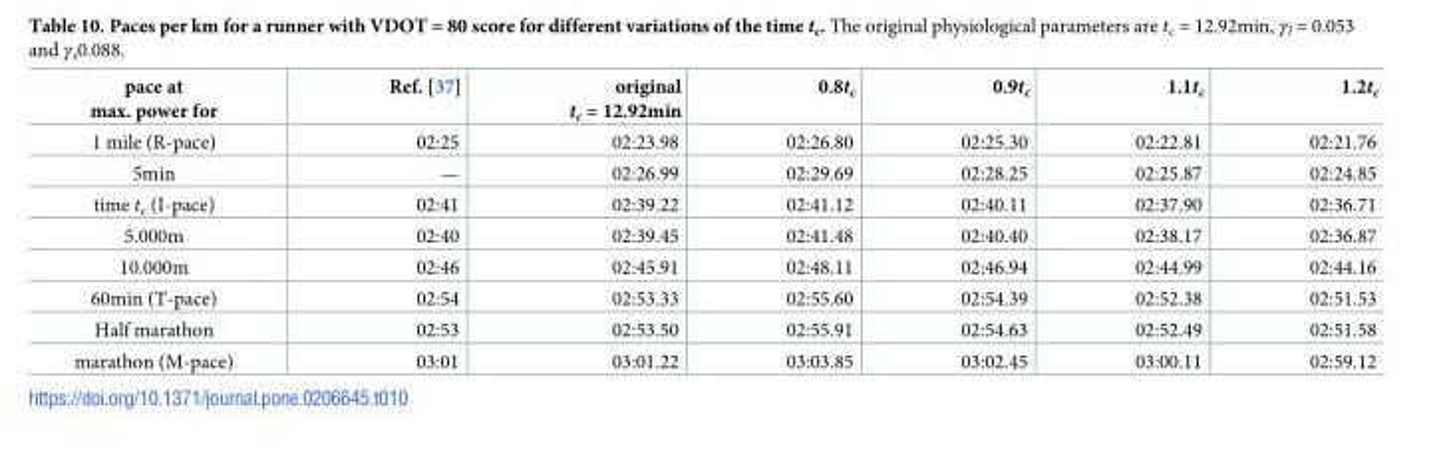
<table><thead><tr><td>pace at max. power for</td><td>Ref. [37]</td><td>original t<sub>c</sub> = 12.92min</td><td>0.8t<sub>c</sub></td><td>0.9t<sub>c</sub></td><td>1.1t<sub>c</sub></td><td>1.2t<sub>c</sub></td></tr></thead><tbody><tr><td>1 mile (R-pace)</td><td>02:25</td><td>02:23.98</td><td>02:26.80</td><td>02:25.30</td><td>02:22.81</td><td>02:21.76</td></tr><tr><td>5min</td><td>—</td><td>02:26.99</td><td>02:29.69</td><td>02:28.25</td><td>02:25.87</td><td>02:24.85</td></tr><tr><td>time t<sub>c</sub> (I-pace)</td><td>02:41</td><td>02:39.22</td><td>02:41.12</td><td>02:40.11</td><td>02:37.90</td><td>02:36.71</td></tr><tr><td>5.000m</td><td>02:40</td><td>02:39.45</td><td>02:41.48</td><td>02:40.40</td><td>02:38.17</td><td>02:36.87</td></tr><tr><td>10.000m</td><td>02:46</td><td>02:45.91</td><td>02:48.11</td><td>02:46.94</td><td>02:44.99</td><td>02:44.16</td></tr><tr><td>60min (T-pace)</td><td>02:54</td><td>02:53.33</td><td>02:55.60</td><td>02:54.39</td><td>02:52.38</td><td>02:51.53</td></tr><tr><td>Half marathon</td><td>02:53</td><td>02:53.50</td><td>02:55.91</td><td>02:54.63</td><td>02:52.49</td><td>02:51.58</td></tr><tr><td>marathon (M-pace)</td><td>03:01</td><td>03:01.22</td><td>03:03.85</td><td>03:02.45</td><td>03:00.11</td><td>02:59.12</td></tr></tbody></table>